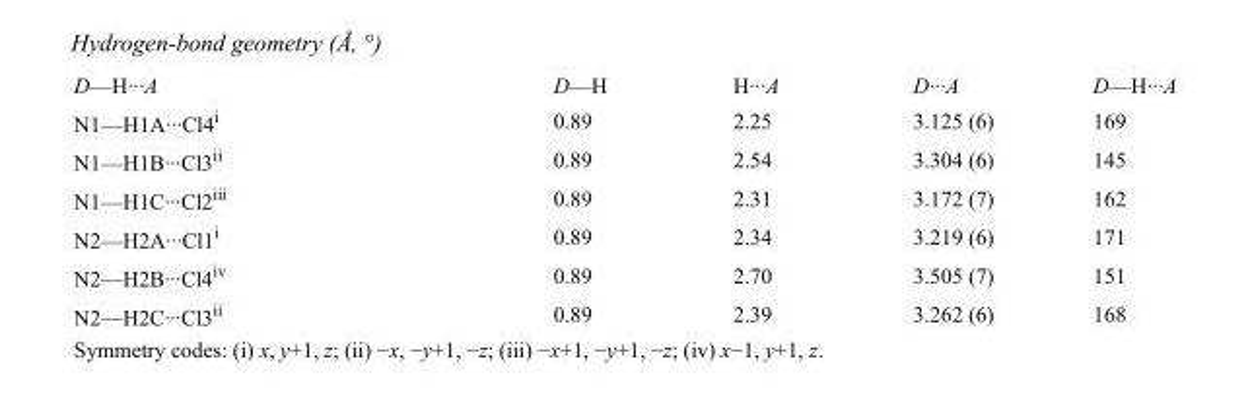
<table><tbody><tr><td>D—H···A</td><td>D—H</td><td>H···A</td><td>D···A</td><td>D—H···A</td></tr><tr><td>N1—H1A···Cl4<sup>i</sup></td><td>0.89</td><td>2.25</td><td>3.125 (6)</td><td>169</td></tr><tr><td>N1—H1B···Cl3<sup>ii</sup></td><td>0.89</td><td>2.54</td><td>3.304 (6)</td><td>145</td></tr><tr><td>N1—H1C···Cl2<sup>iii</sup></td><td>0.89</td><td>2.31</td><td>3.172 (7)</td><td>162</td></tr><tr><td>N2—H2A···Cl1<sup>i</sup></td><td>0.89</td><td>2.34</td><td>3.219 (6)</td><td>171</td></tr><tr><td>N2—H2B···Cl4<sup>iv</sup></td><td>0.89</td><td>2.70</td><td>3.505 (7)</td><td>151</td></tr><tr><td>N2—H2C···Cl3<sup>ii</sup></td><td>0.89</td><td>2.39</td><td>3.262 (6)</td><td>168</td></tr></tbody></table>